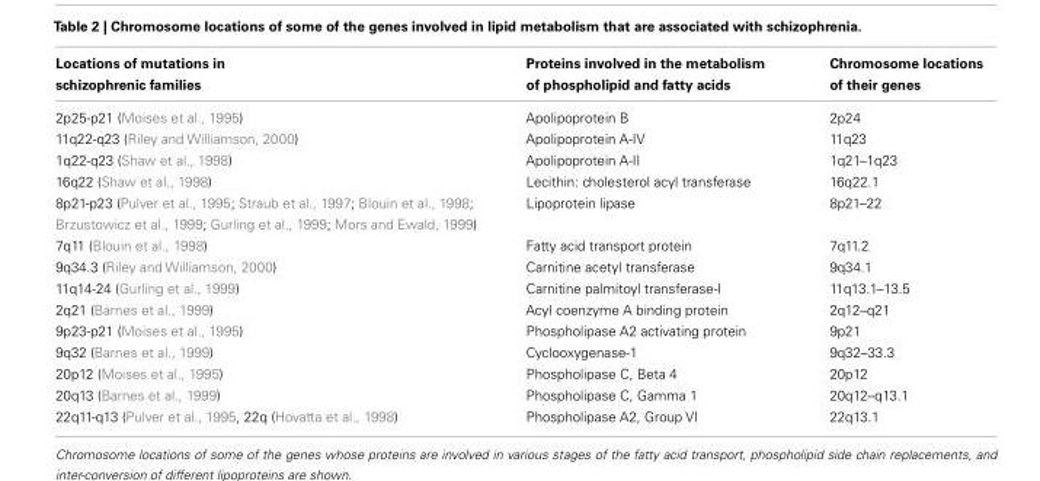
<table><thead><tr><td>Locations of mutations in schizophrenic families</td><td>Proteins involved in the metabolism of phospholipid and fatty acids</td><td>Chromosome locations of their genes</td></tr></thead><tbody><tr><td>2p25-p21 (Moises et al., 1995)</td><td>Apolipoprotein B</td><td>2p24</td></tr><tr><td>11q22-q23 (Riley and Williamson, 2000)</td><td>Apolipoprotein A-IV</td><td>11q23</td></tr><tr><td>1q22-q23 (Shaw et al., 1998)</td><td>Apolipoprotein A-II</td><td>1q21–1q23</td></tr><tr><td>16q22 (Shaw et al., 1998)</td><td>Lecithin: cholesterol acyl transferase</td><td>16q22.1</td></tr><tr><td>8p21-p23 (Pulver et al., 1995; Straub et al., 1997; Blouin et al., 1998; Brzustowicz et al., 1999; Gurling et al., 1999; Mors and Ewald, 1999)</td><td>Lipoprotein lipase</td><td>8p21–22</td></tr><tr><td>7q11 (Blouin et al., 1998)</td><td>Fatty acid transport protein</td><td>7q11.2</td></tr><tr><td>9q34.3 (Riley and Williamson, 2000)</td><td>Carnitine acetyl transferase</td><td>9q34.1</td></tr><tr><td>11q14-24 (Gurling et al., 1999)</td><td>Carnitine palmitoyl transferase-I</td><td>11q13.1–13.5</td></tr><tr><td>2q21 (Barnes et al., 1999)</td><td>Acyl coenzyme A binding protein</td><td>2q12–q21</td></tr><tr><td>9p23-p21 (Moises et al., 1995)</td><td>Phospholipase A2 activating protein</td><td>9p21</td></tr><tr><td>9q32 (Barnes et al., 1999)</td><td>Cyclooxygenase-1</td><td>9q32–33.3</td></tr><tr><td>20p12 (Moises et al., 1995)</td><td>Phospholipase C, Beta 4</td><td>20p12</td></tr><tr><td>20q13 (Barnes et al., 1999)</td><td>Phospholipase C, Gamma 1</td><td>20q12–q13.1</td></tr><tr><td>22q11-q13 (Pulver et al., 1995, 22q (Hovatta et al., 1998)</td><td>Phospholipase A2, Group VI</td><td>22q13.1</td></tr></tbody></table>